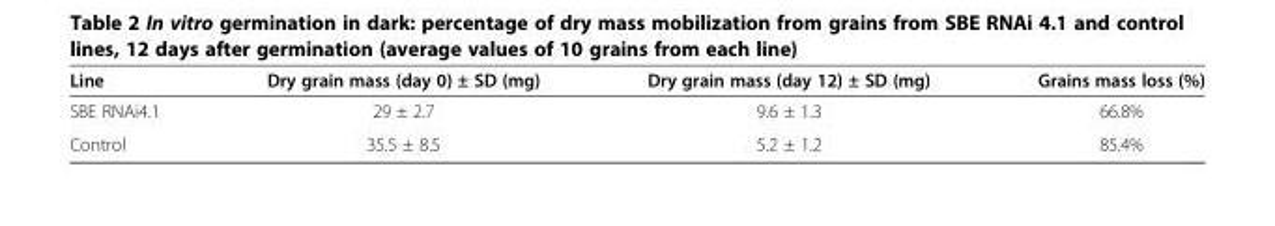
<table><thead><tr><td>Line</td><td>Dry grain mass (day 0) ± SD (mg)</td><td>Dry grain mass (day 12) ± SD (mg)</td><td>Grains mass loss (%)</td></tr></thead><tbody><tr><td>SBE RNAi4.1</td><td>29 ± 2.7</td><td>9.6 ± 1.3</td><td>66.8%</td></tr><tr><td>Control</td><td>35.5 ± 8.5</td><td>5.2 ± 1.2</td><td>85.4%</td></tr></tbody></table>